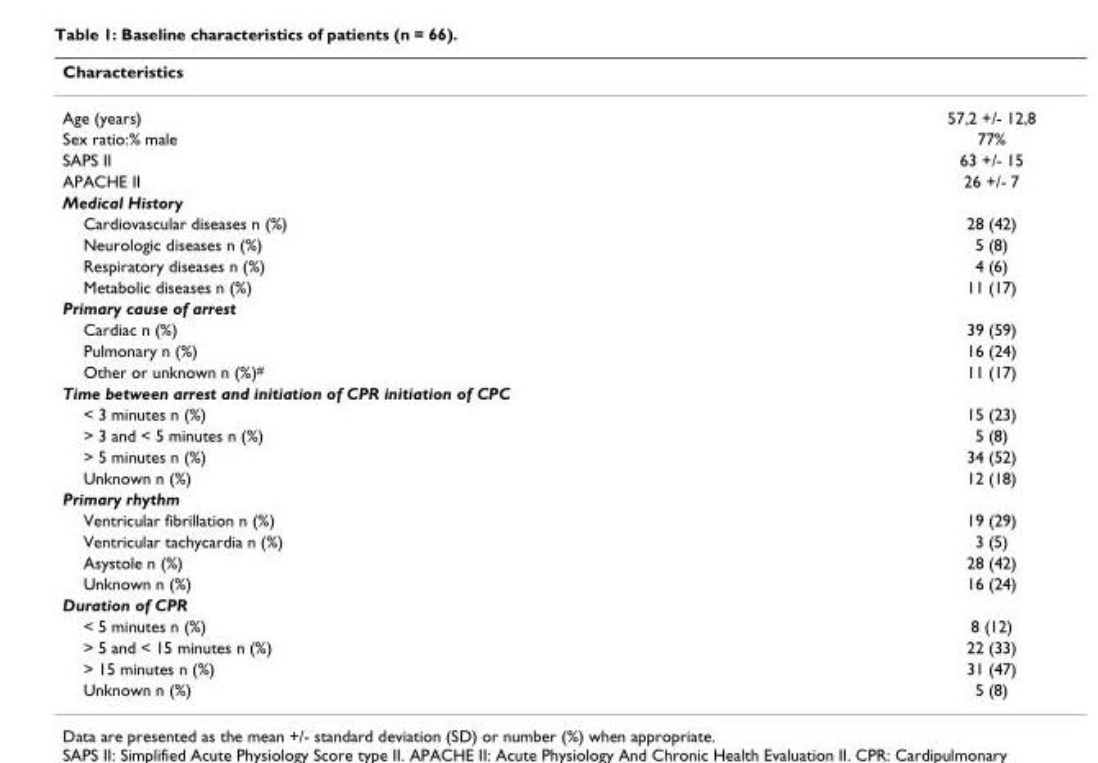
<table><thead><tr><td>Characteristics</td><td></td></tr></thead><tbody><tr><td>Age (years)</td><td>57,2 +/- 12,8</td></tr><tr><td>Sex ratio:% male</td><td>77%</td></tr><tr><td>SAPS II</td><td>63 +/- 15</td></tr><tr><td>APACHE II</td><td>26 +/- 7</td></tr><tr><td colspan="2">Medical History</td></tr><tr><td>Cardiovascular diseases n (%)</td><td>28 (42)</td></tr><tr><td>Neurologic diseases n (%)</td><td>5 (8)</td></tr><tr><td>Respiratory diseases n (%)</td><td>4 (6)</td></tr><tr><td>Metabolic diseases n (%)</td><td>11 (17)</td></tr><tr><td colspan="2">Primary cause of arrest</td></tr><tr><td>Cardiac n (%)</td><td>39 (59)</td></tr><tr><td>Pulmonary n (%)</td><td>16 (24)</td></tr><tr><td>Other or unknown n (%)<sup>#</sup></td><td>11 (17)</td></tr><tr><td colspan="2">Time between arrest and initiation of CPR initiation of CPC</td></tr><tr><td>&lt; 3 minutes n (%)</td><td>15 (23)</td></tr><tr><td>&gt; 3 and &lt; 5 minutes n (%)</td><td>5 (8)</td></tr><tr><td>&gt; 5 minutes n (%)</td><td>34 (52)</td></tr><tr><td>Unknown n (%)</td><td>12 (18)</td></tr><tr><td colspan="2">Primary rhythm</td></tr><tr><td>Ventricular fibrillation n (%)</td><td>19 (29)</td></tr><tr><td>Ventricular tachycardia n (%)</td><td>3 (5)</td></tr><tr><td>Asystole n (%)</td><td>28 (42)</td></tr><tr><td>Unknown n (%)</td><td>16 (24)</td></tr><tr><td colspan="2">Duration of CPR</td></tr><tr><td>&lt; 5 minutes n (%)</td><td>8 (12)</td></tr><tr><td>&gt; 5 and &lt; 15 minutes n (%)</td><td>22 (33)</td></tr><tr><td>&gt; 15 minutes n (%)</td><td>31 (47)</td></tr><tr><td>Unknown n (%)</td><td>5 (8)</td></tr></tbody></table>